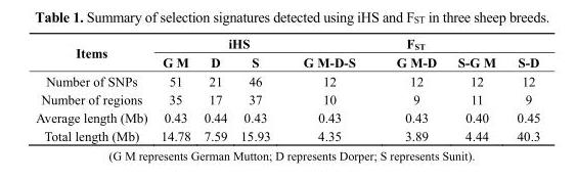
<table><thead><tr><td rowspan="2">Items</td><td colspan="3">iHS</td><td colspan="4">F<sub>ST</sub></td></tr><tr><td>G M</td><td>D</td><td>S</td><td>G M-D-S</td><td>G M-D</td><td>S-G M</td><td>S-D</td></tr></thead><tbody><tr><td>Number of SNPs</td><td>51</td><td>21</td><td>46</td><td>12</td><td>12</td><td>12</td><td>12</td></tr><tr><td>Number of regions</td><td>35</td><td>17</td><td>37</td><td>10</td><td>9</td><td>11</td><td>9</td></tr><tr><td>Average length (Mb)</td><td>0.43</td><td>0.44</td><td>0.43</td><td>0.43</td><td>0.43</td><td>0.40</td><td>0.45</td></tr><tr><td>Total length (Mb)</td><td>14.78</td><td>7.59</td><td>15.93</td><td>4.35</td><td>3.89</td><td>4.44</td><td>40.3</td></tr></tbody></table>